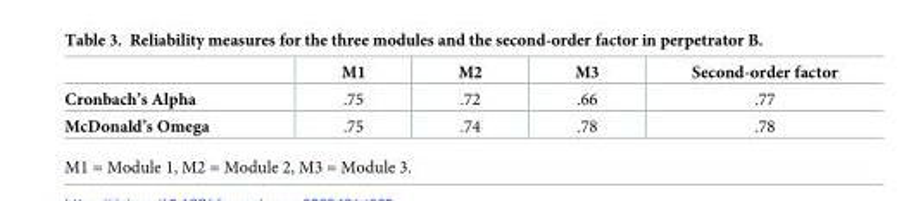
<table><thead><tr><td></td><td>M1</td><td>M2</td><td>M3</td><td>Second-order factor</td></tr></thead><tbody><tr><td>Cronbach’s Alpha</td><td>.75</td><td>.72</td><td>.66</td><td>.77</td></tr><tr><td>McDonald’s Omega</td><td>.75</td><td>.74</td><td>.78</td><td>.78</td></tr></tbody></table>